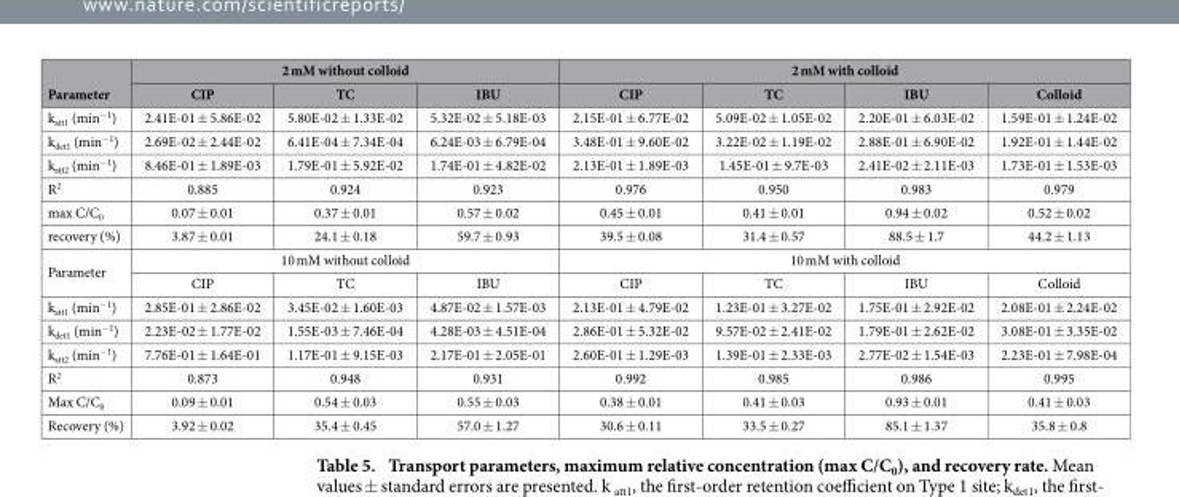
<table><thead><tr><td rowspan="2">Parameter</td><td colspan="3">2 mM without colloid</td><td colspan="4">2 mM with colloid</td></tr><tr><td>CIP</td><td>TC</td><td>IBU</td><td>CIP</td><td>TC</td><td>IBU</td><td>Colloid</td></tr></thead><tbody><tr><td>k<sub>att1</sub> (min<sup>−1</sup>)</td><td>2.41E-01 ± 5.86E-02</td><td>5.80E-02 ± 1.33E-02</td><td>5.32E-02 ± 5.18E-03</td><td>2.15E-01 ± 6.77E-02</td><td>5.09E-02 ± 1.05E-02</td><td>2.20E-01 ± 6.03E-02</td><td>1.59E-01 ± 1.24E-02</td></tr><tr><td>k<sub>det1</sub> (min<sup>−1</sup>)</td><td>2.69E-02 ± 2.44E-02</td><td>6.41E-04 ± 7.34E-04</td><td>6.24E-03 ± 6.79E-04</td><td>3.48E-01 ± 9.60E-02</td><td>3.22E-02 ± 1.19E-02</td><td>2.88E-01 ± 6.90E-02</td><td>1.92E-01 ± 1.44E-02</td></tr><tr><td>k<sub>att2</sub> (min<sup>−1</sup>)</td><td>8.46E-01 ± 1.89E-03</td><td>1.79E-01 ± 5.92E-02</td><td>1.74E-01 ± 4.82E-02</td><td>2.13E-01 ± 1.89E-03</td><td>1.45E-01 ± 9.7E-03</td><td>2.41E-02 ± 2.11E-03</td><td>1.73E-01 ± 1.53E-03</td></tr><tr><td>R<sup>2</sup></td><td>0.885</td><td>0.924</td><td>0.923</td><td>0.976</td><td>0.950</td><td>0.983</td><td>0.979</td></tr><tr><td>max C/C<sub>0</sub></td><td>0.07 ± 0.01</td><td>0.37 ± 0.01</td><td>0.57 ± 0.02</td><td>0.45 ± 0.01</td><td>0.41 ± 0.01</td><td>0.94 ± 0.02</td><td>0.52 ± 0.02</td></tr><tr><td>recovery (%)</td><td>3.87 ± 0.01</td><td>24.1 ± 0.18</td><td>59.7 ± 0.93</td><td>39.5 ± 0.08</td><td>31.4 ± 0.57</td><td>88.5 ± 1.7</td><td>44.2 ± 1.13</td></tr><tr><td rowspan="2">Parameter</td><td colspan="3">10 mM without colloid</td><td colspan="4">10 mM with colloid</td></tr><tr><td>CIP</td><td>TC</td><td>IBU</td><td>CIP</td><td>TC</td><td>IBU</td><td>Colloid</td></tr><tr><td>k<sub>att1</sub> (min<sup>−1</sup>)</td><td>2.85E-01 ± 2.86E-02</td><td>3.45E-02 ± 1.60E-03</td><td>4.87E-02 ± 1.57E-03</td><td>2.13E-01 ± 4.79E-02</td><td>1.23E-01 ± 3.27E-02</td><td>1.75E-01 ± 2.92E-02</td><td>2.08E-01 ± 2.24E-02</td></tr><tr><td>k<sub>det1</sub> (min<sup>−1</sup>)</td><td>2.23E-02 ± 1.77E-02</td><td>1.55E-03 ± 7.46E-04</td><td>4.28E-03 ± 4.51E-04</td><td>2.86E-01 ± 5.32E-02</td><td>9.57E-02 ± 2.41E-02</td><td>1.79E-01 ± 2.62E-02</td><td>3.08E-01 ± 3.35E-02</td></tr><tr><td>k<sub>att2</sub> (min<sup>−1</sup>)</td><td>7.76E-01 ± 1.64E-01</td><td>1.17E-01 ± 9.15E-03</td><td>2.17E-01 ± 2.05E-01</td><td>2.60E-01 ± 1.29E-03</td><td>1.39E-01 ± 2.33E-03</td><td>2.77E-02 ± 1.54E-03</td><td>2.23E-01 ± 7.98E-04</td></tr><tr><td>R<sup>2</sup></td><td>0.873</td><td>0.948</td><td>0.931</td><td>0.992</td><td>0.985</td><td>0.986</td><td>0.995</td></tr><tr><td>Max C/C<sub>0</sub></td><td>0.09 ± 0.01</td><td>0.54 ± 0.03</td><td>0.55 ± 0.03</td><td>0.38 ± 0.01</td><td>0.41 ± 0.03</td><td>0.93 ± 0.01</td><td>0.41 ± 0.03</td></tr><tr><td>Recovery (%)</td><td>3.92 ± 0.02</td><td>35.4 ± 0.45</td><td>57.0 ± 1.27</td><td>30.6 ± 0.11</td><td>33.5 ± 0.27</td><td>85.1 ± 1.37</td><td>35.8 ± 0.8</td></tr></tbody></table>